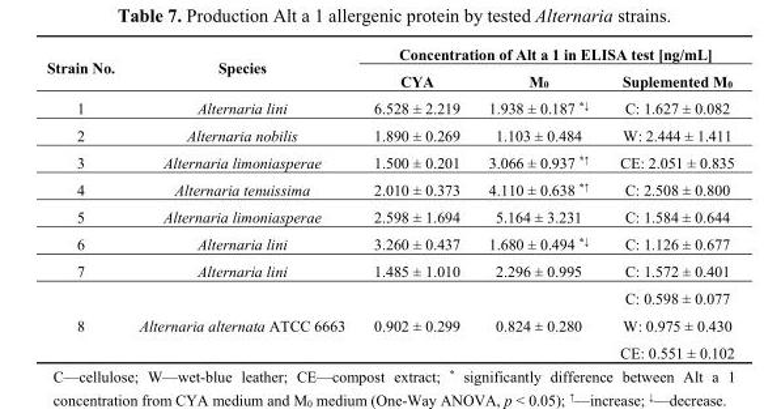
<table><thead><tr><td rowspan="2">Strain No.</td><td rowspan="2">Species</td><td colspan="3">Concentration of Alt a 1 in ELISA test [ng/mL]</td></tr><tr><td>CYA</td><td>M<sub>0</sub></td><td>Suplemented M<sub>0</sub></td></tr></thead><tbody><tr><td>1</td><td>Alternaria lini</td><td>6.528 ± 2.219</td><td>1.938 ± 0.187 <sup>*↓</sup></td><td>C: 1.627 ± 0.082</td></tr><tr><td>2</td><td>Alternaria nobilis</td><td>1.890 ± 0.269</td><td>1.103 ± 0.484</td><td>W: 2.444 ± 1.411</td></tr><tr><td>3</td><td>Alternaria limoniasperae</td><td>1.500 ± 0.201</td><td>3.066 ± 0.937 <sup>*↑</sup></td><td>CE: 2.051 ± 0.835</td></tr><tr><td>4</td><td>Alternaria tenuissima</td><td>2.010 ± 0.373</td><td>4.110 ± 0.638 <sup>*↑</sup></td><td>C: 2.508 ± 0.800</td></tr><tr><td>5</td><td>Alternaria limoniasperae</td><td>2.598 ± 1.694</td><td>5.164 ± 3.231</td><td>C: 1.584 ± 0.644</td></tr><tr><td>6</td><td>Alternaria lini</td><td>3.260 ± 0.437</td><td>1.680 ± 0.494 <sup>*↓</sup></td><td>C: 1.126 ± 0.677</td></tr><tr><td>7</td><td>Alternaria lini</td><td>1.485 ± 1.010</td><td>2.296 ± 0.995</td><td>C: 1.572 ± 0.401</td></tr><tr><td rowspan="3">8</td><td rowspan="3">Alternaria alternata ATCC 6663</td><td rowspan="3">0.902 ± 0.299</td><td rowspan="3">0.824 ± 0.280</td><td>C: 0.598 ± 0.077</td></tr><tr><td>W: 0.975 ± 0.430</td></tr><tr><td>CE: 0.551 ± 0.102</td></tr></tbody></table>